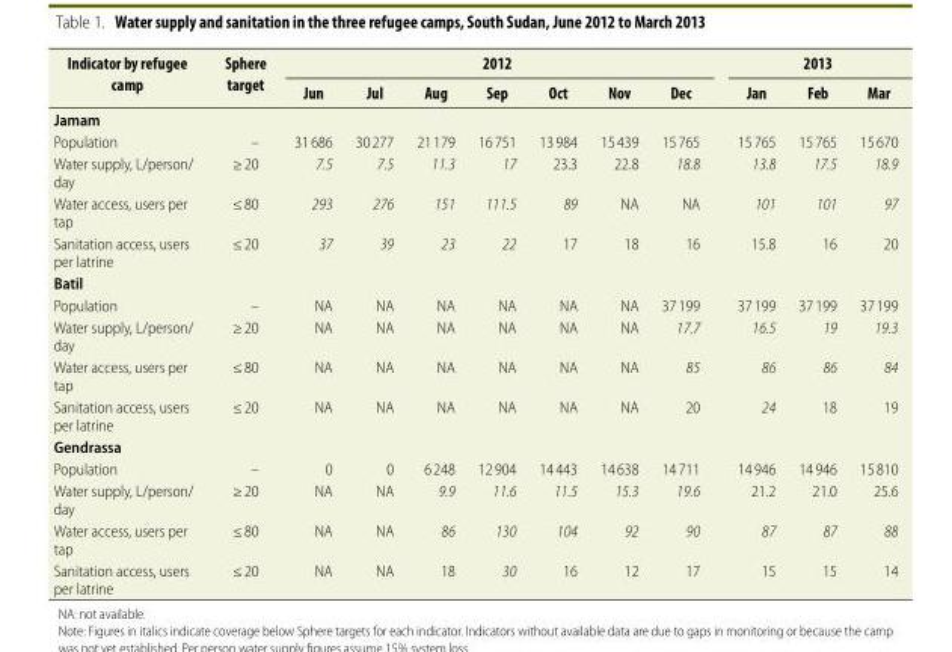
<table><thead><tr><td rowspan="2">Indicator by refugee camp</td><td rowspan="2">Sphere target</td><td colspan="7">2012</td><td colspan="3">2013</td></tr><tr><td>Jun</td><td>Jul</td><td>Aug</td><td>Sep</td><td>Oct</td><td>Nov</td><td>Dec</td><td>Jan</td><td>Feb</td><td>Mar</td></tr></thead><tbody><tr><td colspan="12">Jamam</td></tr><tr><td>Population</td><td>–</td><td>31 686</td><td>30 277</td><td>21 179</td><td>16 751</td><td>13 984</td><td>15 439</td><td>15 765</td><td>15 765</td><td>15 765</td><td>15 670</td></tr><tr><td>Water supply, L/person/ day</td><td>≥ 20</td><td>7.5</td><td>7.5</td><td>11.3</td><td>17</td><td>23.3</td><td>22.8</td><td>18.8</td><td>13.8</td><td>17.5</td><td>18.9</td></tr><tr><td>Water access, users per tap</td><td>≤ 80</td><td>293</td><td>276</td><td>151</td><td>111.5</td><td>89</td><td>NA</td><td>NA</td><td>101</td><td>101</td><td>97</td></tr><tr><td>Sanitation access, users per latrine</td><td>≤ 20</td><td>37</td><td>39</td><td>23</td><td>22</td><td>17</td><td>18</td><td>16</td><td>15.8</td><td>16</td><td>20</td></tr><tr><td colspan="12">Batil</td></tr><tr><td>Population</td><td>–</td><td>NA</td><td>NA</td><td>NA</td><td>NA</td><td>NA</td><td>NA</td><td>37 199</td><td>37 199</td><td>37 199</td><td>37 199</td></tr><tr><td>Water supply, L/person/ day</td><td>≥ 20</td><td>NA</td><td>NA</td><td>NA</td><td>NA</td><td>NA</td><td>NA</td><td>17.7</td><td>16.5</td><td>19</td><td>19.3</td></tr><tr><td>Water access, users per tap</td><td>≤ 80</td><td>NA</td><td>NA</td><td>NA</td><td>NA</td><td>NA</td><td>NA</td><td>85</td><td>86</td><td>86</td><td>84</td></tr><tr><td>Sanitation access, users per latrine</td><td>≤ 20</td><td>NA</td><td>NA</td><td>NA</td><td>NA</td><td>NA</td><td>NA</td><td>20</td><td>24</td><td>18</td><td>19</td></tr><tr><td colspan="12">Gendrassa</td></tr><tr><td>Population</td><td>–</td><td>0</td><td>0</td><td>6 248</td><td>12 904</td><td>14 443</td><td>14 638</td><td>14 711</td><td>14 946</td><td>14 946</td><td>15 810</td></tr><tr><td>Water supply, L/person/ day</td><td>≥ 20</td><td>NA</td><td>NA</td><td>9.9</td><td>11.6</td><td>11.5</td><td>15.3</td><td>19.6</td><td>21.2</td><td>21.0</td><td>25.6</td></tr><tr><td>Water access, users per tap</td><td>≤ 80</td><td>NA</td><td>NA</td><td>86</td><td>130</td><td>104</td><td>92</td><td>90</td><td>87</td><td>87</td><td>88</td></tr><tr><td>Sanitation access, users per latrine</td><td>≤ 20</td><td>NA</td><td>NA</td><td>18</td><td>30</td><td>16</td><td>12</td><td>17</td><td>15</td><td>15</td><td>14</td></tr></tbody></table>